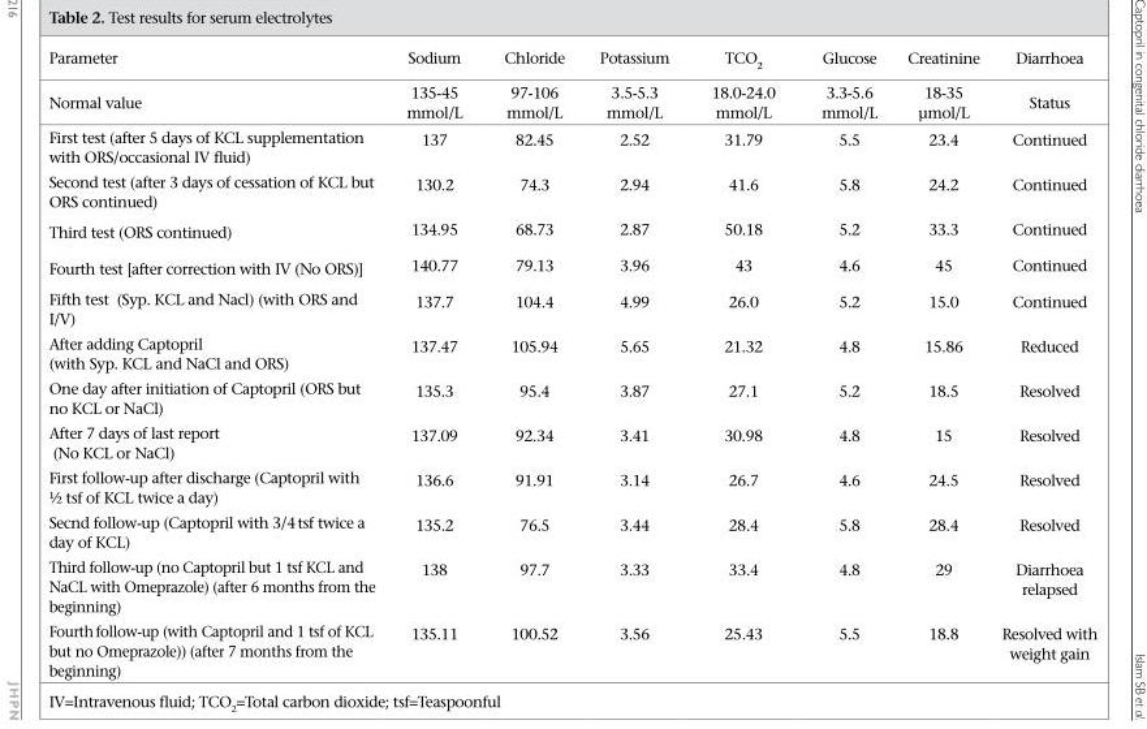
<table><thead><tr><td rowspan="2">Parameter Normal value</td><td rowspan="2">Sodium 135-45 mmol/L</td><td rowspan="2">Chloride 97-106 mmol/L</td><td rowspan="2">Potassium 3.5-5.3 mmol/L</td><td rowspan="2">TCO<sub>2</sub> 18.0-24.0 mmol/L</td><td rowspan="2">Glucose 3.3-5.6 mmol/L</td><td rowspan="2">Creatinine 18-35 μmol/L</td><td rowspan="2">Diarrhoea Status</td></tr><tr></tr></thead><tbody><tr><td>First test (after 5 days of KCL supplementation with ORS/occasional IV fluid)</td><td>137</td><td>82.45</td><td>2.52</td><td>31.79</td><td>5.5</td><td>23.4</td><td>Continued</td></tr><tr><td>Second test (after 3 days of cessation of KCL but ORS continued)</td><td>130.2</td><td>74.3</td><td>2.94</td><td>41.6</td><td>5.8</td><td>24.2</td><td>Continued</td></tr><tr><td>Third test (ORS continued)</td><td>134.95</td><td>68.73</td><td>2.87</td><td>50.18</td><td>5.2</td><td>33.3</td><td>Continued</td></tr><tr><td>Fourth test [after correction with IV (No ORS)]</td><td>140.77</td><td>79.13</td><td>3.96</td><td>43</td><td>4.6</td><td>45</td><td>Continued</td></tr><tr><td>Fifth test (Syp. KCL and Nacl) (with ORS and I/V)</td><td>137.7</td><td>104.4</td><td>4.99</td><td>26.0</td><td>5.2</td><td>15.0</td><td>Continued</td></tr><tr><td>After adding Captopril (with Syp. KCL and NaCl and ORS)</td><td>137.47</td><td>105.94</td><td>5.65</td><td>21.32</td><td>4.8</td><td>15.86</td><td>Reduced</td></tr><tr><td>One day after initiation of Captopril (ORS but no KCL or NaCl)</td><td>135.3</td><td>95.4</td><td>3.87</td><td>27.1</td><td>5.2</td><td>18.5</td><td>Resolved</td></tr><tr><td>After 7 days of last report (No KCL or NaCl)</td><td>137.09</td><td>92.34</td><td>3.41</td><td>30.98</td><td>4.8</td><td>15</td><td>Resolved</td></tr><tr><td>First follow-up after discharge (Captopril with ½ tsf of KCL twice a day)</td><td>136.6</td><td>91.91</td><td>3.14</td><td>26.7</td><td>4.6</td><td>24.5</td><td>Resolved</td></tr><tr><td>Secnd follow-up (Captopril with 3/4 tsf twice a day of KCL)</td><td>135.2</td><td>76.5</td><td>3.44</td><td>28.4</td><td>5.8</td><td>28.4</td><td>Resolved</td></tr><tr><td>Third follow-up (no Captopril but 1 tsf KCL and NaCL with Omeprazole) (after 6 months from the beginning)</td><td>138</td><td>97.7</td><td>3.33</td><td>33.4</td><td>4.8</td><td>29</td><td>Diarrhoea relapsed</td></tr><tr><td>Fourth follow-up (with Captopril and 1 tsf of KCL but no Omeprazole)) (after 7 months from the beginning)</td><td>135.11</td><td>100.52</td><td>3.56</td><td>25.43</td><td>5.5</td><td>18.8</td><td>Resolved with weight gain</td></tr></tbody></table>